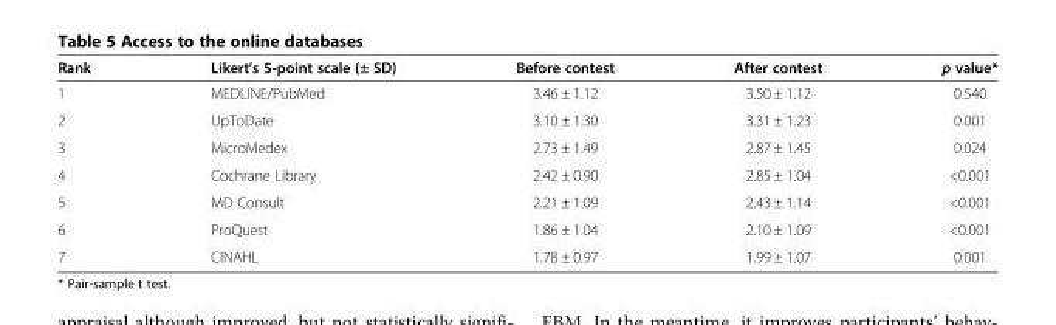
<table><thead><tr><td>Rank</td><td>Likert’s 5-point scale (± SD)</td><td>Before contest</td><td>After contest</td><td>p value*</td></tr></thead><tbody><tr><td>1</td><td>MEDLINE/PubMed</td><td>3.46 ± 1.12</td><td>3.50 ± 1.12</td><td>0.540</td></tr><tr><td>2</td><td>UpToDate</td><td>3.10 ± 1.30</td><td>3.31 ± 1.23</td><td>0.001</td></tr><tr><td>3</td><td>MicroMedex</td><td>2.73 ± 1.49</td><td>2.87 ± 1.45</td><td>0.024</td></tr><tr><td>4</td><td>Cochrane Library</td><td>2.42 ± 0.90</td><td>2.85 ± 1.04</td><td>&lt;0.001</td></tr><tr><td>5</td><td>MD Consult</td><td>2.21 ± 1.09</td><td>2.43 ± 1.14</td><td>&lt;0.001</td></tr><tr><td>6</td><td>ProQuest</td><td>1.86 ± 1.04</td><td>2.10 ± 1.09</td><td>&lt;0.001</td></tr><tr><td>7</td><td>CINAHL</td><td>1.78 ± 0.97</td><td>1.99 ± 1.07</td><td>0.001</td></tr></tbody></table>